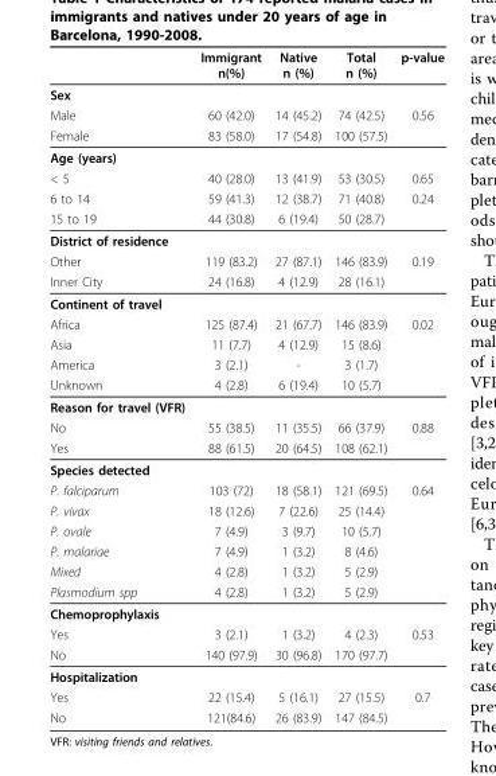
<table><thead><tr><td></td><td>Immigrant n(%)</td><td>Native n (%)</td><td>Total n (%)</td><td>p-value</td></tr></thead><tbody><tr><td colspan="5">Sex</td></tr><tr><td>Male</td><td>60 (42.0)</td><td>14 (45.2)</td><td>74 (42.5)</td><td>0.56</td></tr><tr><td>Female</td><td>83 (58.0)</td><td>17 (54.8)</td><td>100 (57.5)</td><td></td></tr><tr><td colspan="5">Age (years)</td></tr><tr><td>&lt; 5</td><td>40 (28.0)</td><td>13 (41.9)</td><td>53 (30.5)</td><td>0.65</td></tr><tr><td>6 to 14</td><td>59 (41.3)</td><td>12 (38.7)</td><td>71 (40.8)</td><td>0.24</td></tr><tr><td>15 to 19</td><td>44 (30.8)</td><td>6 (19.4)</td><td>50 (28.7)</td><td></td></tr><tr><td colspan="5">District of residence</td></tr><tr><td>Other</td><td>119 (83.2)</td><td>27 (87.1)</td><td>146 (83.9)</td><td>0.19</td></tr><tr><td>Inner City</td><td>24 (16.8)</td><td>4 (12.9)</td><td>28 (16.1)</td><td></td></tr><tr><td colspan="5">Continent of travel</td></tr><tr><td>Africa</td><td>125 (87.4)</td><td>21 (67.7)</td><td>146 (83.9)</td><td>0.02</td></tr><tr><td>Asia</td><td>11 (7.7)</td><td>4 (12.9)</td><td>15 (8.6)</td><td></td></tr><tr><td>America</td><td>3 (2.1)</td><td>-</td><td>3 (1.7)</td><td></td></tr><tr><td>Unknown</td><td>4 (2.8)</td><td>6 (19.4)</td><td>10 (5.7)</td><td></td></tr><tr><td colspan="5">Reason for travel (VFR)</td></tr><tr><td>No</td><td>55 (38.5)</td><td>11 (35.5)</td><td>66 (37.9)</td><td>0.88</td></tr><tr><td>Yes</td><td>88 (61.5)</td><td>20 (64.5)</td><td>108 (62.1)</td><td></td></tr><tr><td colspan="5">Species detected</td></tr><tr><td>P. falciparum</td><td>103 (72)</td><td>18 (58.1)</td><td>121 (69.5)</td><td>0.64</td></tr><tr><td>P. vivax</td><td>18 (12.6)</td><td>7 (22.6)</td><td>25 (14.4)</td><td></td></tr><tr><td>P. ovale</td><td>7 (4.9)</td><td>3 (9.7)</td><td>10 (5.7)</td><td></td></tr><tr><td>P. malariae</td><td>7 (4.9)</td><td>1 (3.2)</td><td>8 (4.6)</td><td></td></tr><tr><td>Mixed</td><td>4 (2.8)</td><td>1 (3.2)</td><td>5 (2.9)</td><td></td></tr><tr><td>Plasmodium spp</td><td>4 (2.8)</td><td>1 (3.2)</td><td>5 (2.9)</td><td></td></tr><tr><td colspan="5">Chemoprophylaxis</td></tr><tr><td>Yes</td><td>3 (2.1)</td><td>1 (3.2)</td><td>4 (2.3)</td><td>0.53</td></tr><tr><td>No</td><td>140 (97.9)</td><td>30 (96.8)</td><td>170 (97.7)</td><td></td></tr><tr><td colspan="5">Hospitalization</td></tr><tr><td>Yes</td><td>22 (15.4)</td><td>5 (16.1)</td><td>27 (15.5)</td><td>0.7</td></tr><tr><td>No</td><td>121(84.6)</td><td>26 (83.9)</td><td>147 (84.5)</td><td></td></tr></tbody></table>